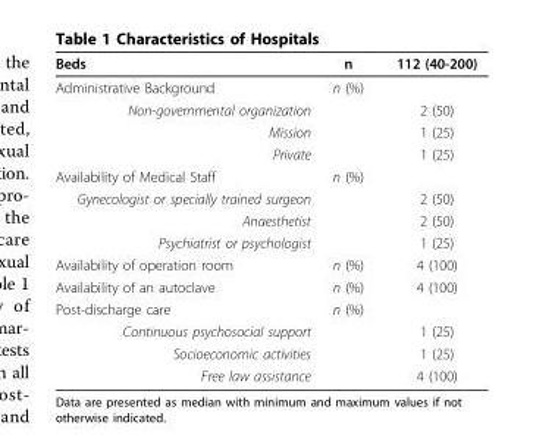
<table><thead><tr><td>Beds</td><td>n</td><td>112 (40-200)</td></tr></thead><tbody><tr><td>Administrative Background</td><td>n (%)</td><td></td></tr><tr><td>Non-governmental organization</td><td></td><td>2 (50)</td></tr><tr><td>Mission</td><td></td><td>1 (25)</td></tr><tr><td>Private</td><td></td><td>1 (25)</td></tr><tr><td>Availability of Medical Staff</td><td>n (%)</td><td></td></tr><tr><td>Gynecologist or specially trained surgeon</td><td></td><td>2 (50)</td></tr><tr><td>Anaesthetist</td><td></td><td>2 (50)</td></tr><tr><td>Psychiatrist or psychologist</td><td></td><td>1 (25)</td></tr><tr><td>Availability of operation room</td><td>n (%)</td><td>4 (100)</td></tr><tr><td>Availability of an autoclave</td><td>n (%)</td><td>4 (100)</td></tr><tr><td>Post-discharge care</td><td>n (%)</td><td></td></tr><tr><td>Continuous psychosocial support</td><td></td><td>1 (25)</td></tr><tr><td>Socioeconomic activities</td><td></td><td>1 (25)</td></tr><tr><td>Free law assistance</td><td></td><td>4 (100)</td></tr></tbody></table>